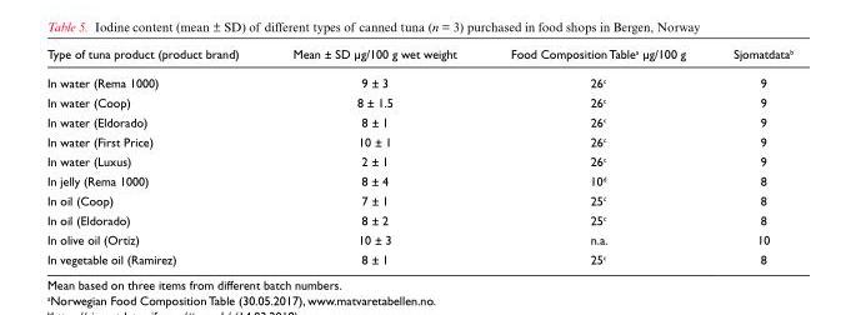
<table><thead><tr><td>Type of tuna product (product brand)</td><td>Mean ± SD µg/100 g wet weight</td><td>Food Composition Table<sup>a</sup> µg/100 g</td><td>Sjomatdata<sup>b</sup></td></tr></thead><tbody><tr><td>In water (Rema 1000)</td><td>9 ± 3</td><td>26<sup>c</sup></td><td>9</td></tr><tr><td>In water (Coop)</td><td>8 ± 1.5</td><td>26<sup>c</sup></td><td>9</td></tr><tr><td>In water (Eldorado)</td><td>8 ± 1</td><td>26<sup>c</sup></td><td>9</td></tr><tr><td>In water (First Price)</td><td>10 ± 1</td><td>26<sup>c</sup></td><td>9</td></tr><tr><td>In water (Luxus)</td><td>2 ± 1</td><td>26<sup>c</sup></td><td>9</td></tr><tr><td>In jelly (Rema 1000)</td><td>8 ± 4</td><td>10<sup>d</sup></td><td>8</td></tr><tr><td>In oil (Coop)</td><td>7 ± 1</td><td>25<sup>c</sup></td><td>8</td></tr><tr><td>In oil (Eldorado)</td><td>8 ± 2</td><td>25<sup>c</sup></td><td>8</td></tr><tr><td>In olive oil (Ortiz)</td><td>10 ± 3</td><td>n.a.</td><td>10</td></tr><tr><td>In vegetable oil (Ramirez)</td><td>8 ± 1</td><td>25<sup>c</sup></td><td>8</td></tr></tbody></table>